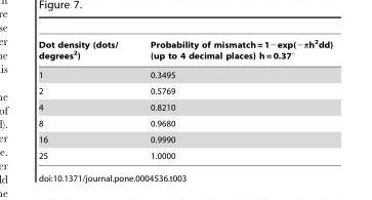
<table><thead><tr><td>Dot density (dots/ degrees<sup>2</sup>)</td><td>Probability of mismatch = 1−exp(−πh<sup>2</sup>dd) (up to 4 decimal places) h = 0.37°</td></tr></thead><tbody><tr><td>1</td><td>0.3495</td></tr><tr><td>2</td><td>0.5769</td></tr><tr><td>4</td><td>0.8210</td></tr><tr><td>8</td><td>0.9680</td></tr><tr><td>16</td><td>0.9990</td></tr><tr><td>25</td><td>1.0000</td></tr></tbody></table>